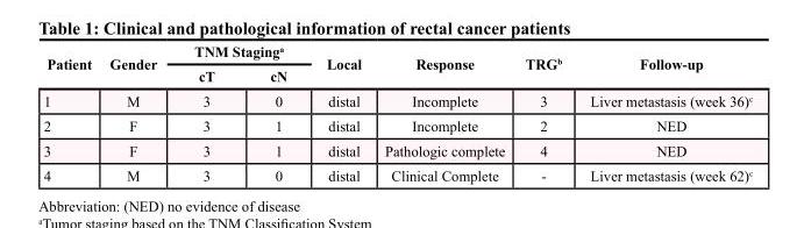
<table><thead><tr><td rowspan="2">Patient</td><td rowspan="2">Gender</td><td colspan="2">TNM Staging<sup>a</sup></td><td rowspan="2">Local</td><td rowspan="2">Response</td><td rowspan="2">TRG<sup>b</sup></td><td rowspan="2">Follow-up</td></tr><tr><td>cT</td><td>cN</td></tr></thead><tbody><tr><td>1</td><td>M</td><td>3</td><td>0</td><td>distal</td><td>Incomplete</td><td>3</td><td>Liver metastasis (week 36)<sup>c</sup></td></tr><tr><td>2</td><td>F</td><td>3</td><td>1</td><td>distal</td><td>Incomplete</td><td>2</td><td>NED</td></tr><tr><td>3</td><td>F</td><td>3</td><td>1</td><td>distal</td><td>Pathologic complete</td><td>4</td><td>NED</td></tr><tr><td>4</td><td>M</td><td>3</td><td>0</td><td>distal</td><td>Clinical Complete</td><td>-</td><td>Liver metastasis (week 62)<sup>c</sup></td></tr></tbody></table>